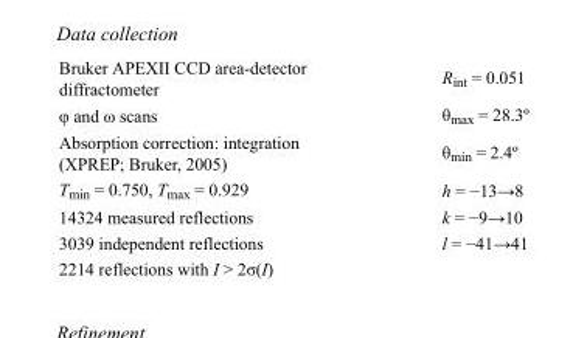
<table><tbody><tr><td>Bruker APEXII CCD area-detector diffractometer</td><td>R<sub>int</sub> = 0.051</td></tr><tr><td>φ and ω scans</td><td>θ<sub>max</sub> = 28.3º</td></tr><tr><td>Absorption correction: integration (XPREP; Bruker, 2005)</td><td>θ<sub>min</sub> = 2.4º</td></tr><tr><td>T<sub>min</sub> = 0.750, T<sub>max</sub> = 0.929</td><td>h = −13→8</td></tr><tr><td>14324 measured reflections</td><td>k = −9→10</td></tr><tr><td>3039 independent reflections</td><td>l = −41→41</td></tr><tr><td>2214 reflections with I &gt; 2σ(I)</td><td></td></tr></tbody></table>